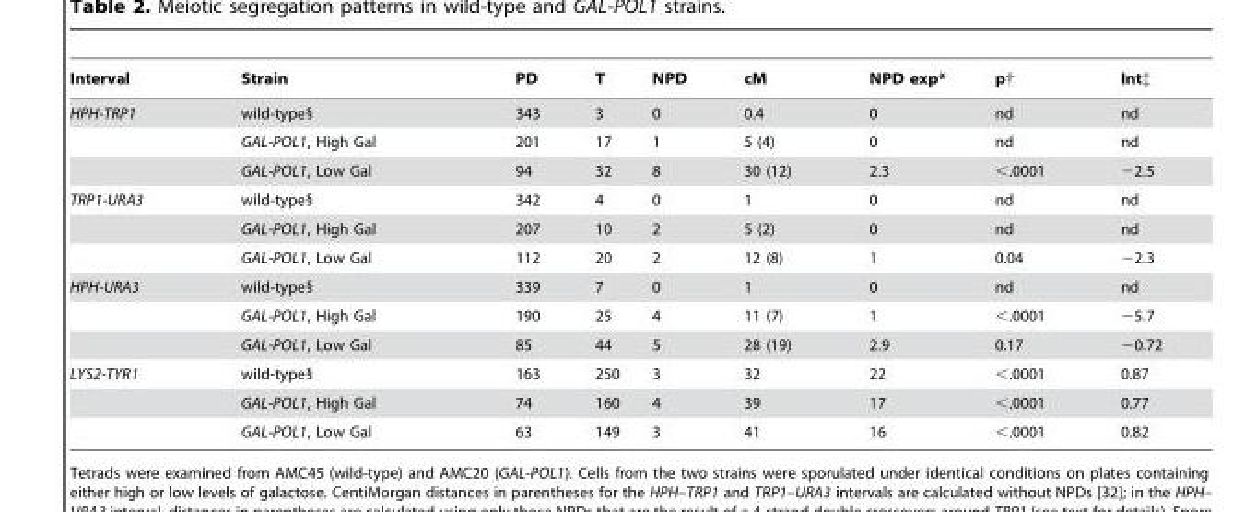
<table><thead><tr><td>Interval</td><td>Strain</td><td>PD</td><td>T</td><td>NPD</td><td>cM</td><td>NPD exp*</td><td>p†</td><td>Int‡</td></tr></thead><tbody><tr><td rowspan="3">HPH-TRP1</td><td>wild-type§</td><td>343</td><td>3</td><td>0</td><td>0.4</td><td>0</td><td>nd</td><td>nd</td></tr><tr><td>GAL-POL1, High Gal</td><td>201</td><td>17</td><td>1</td><td>5 (4)</td><td>0</td><td>nd</td><td>nd</td></tr><tr><td>GAL-POL1, Low Gal</td><td>94</td><td>32</td><td>8</td><td>30 (12)</td><td>2.3</td><td>&lt;.0001</td><td>−2.5</td></tr><tr><td rowspan="3">TRP1-URA3</td><td>wild-type§</td><td>342</td><td>4</td><td>0</td><td>1</td><td>0</td><td>nd</td><td>nd</td></tr><tr><td>GAL-POL1, High Gal</td><td>207</td><td>10</td><td>2</td><td>5 (2)</td><td>0</td><td>nd</td><td>nd</td></tr><tr><td>GAL-POL1, Low Gal</td><td>112</td><td>20</td><td>2</td><td>12 (8)</td><td>1</td><td>0.04</td><td>−2.3</td></tr><tr><td rowspan="3">HPH-URA3</td><td>wild-type§</td><td>339</td><td>7</td><td>0</td><td>1</td><td>0</td><td>nd</td><td>nd</td></tr><tr><td>GAL-POL1, High Gal</td><td>190</td><td>25</td><td>4</td><td>11 (7)</td><td>1</td><td>&lt;.0001</td><td>−5.7</td></tr><tr><td>GAL-POL1, Low Gal</td><td>85</td><td>44</td><td>5</td><td>28 (19)</td><td>2.9</td><td>0.17</td><td>−0.72</td></tr><tr><td rowspan="3">LYS2-TYR1</td><td>wild-type§</td><td>163</td><td>250</td><td>3</td><td>32</td><td>22</td><td>&lt;.0001</td><td>0.87</td></tr><tr><td>GAL-POL1, High Gal</td><td>74</td><td>160</td><td>4</td><td>39</td><td>17</td><td>&lt;.0001</td><td>0.77</td></tr><tr><td>GAL-POL1, Low Gal</td><td>63</td><td>149</td><td>3</td><td>41</td><td>16</td><td>&lt;.0001</td><td>0.82</td></tr></tbody></table>